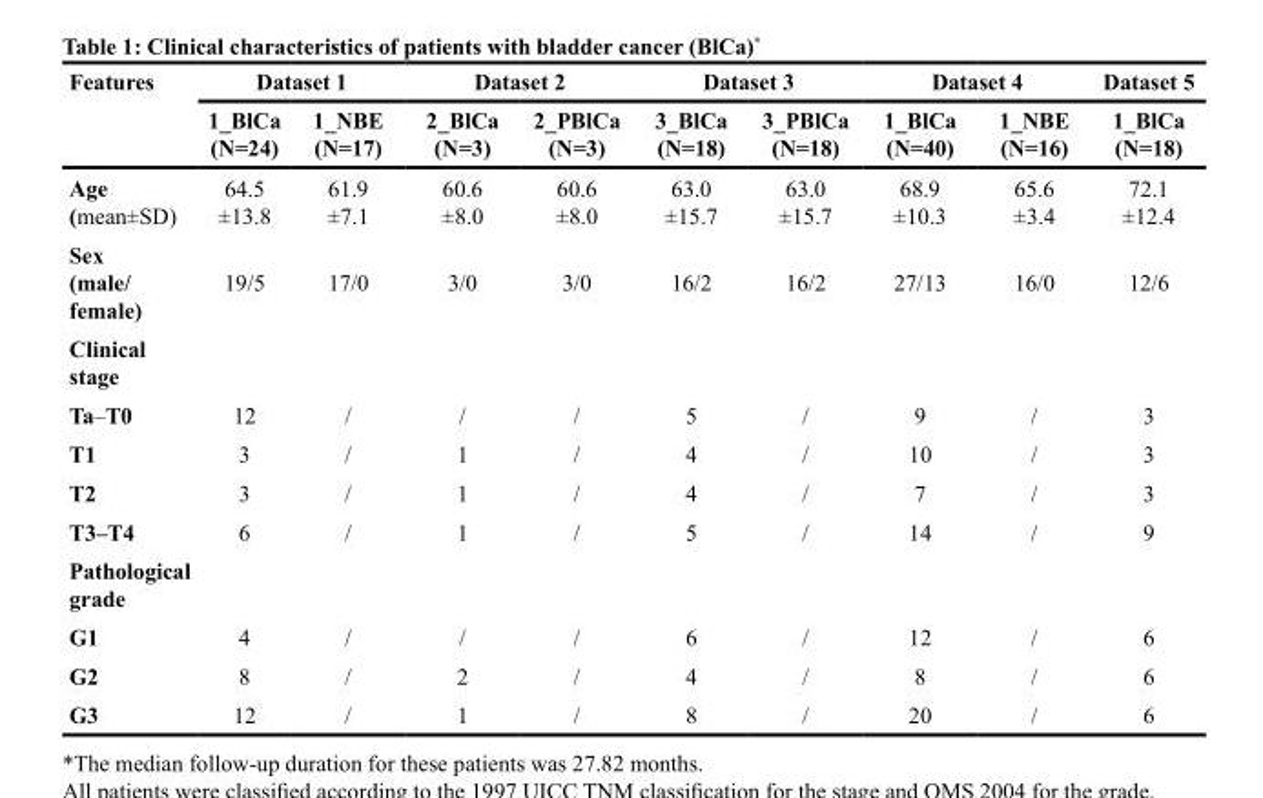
<table><thead><tr><td rowspan="2">Features</td><td colspan="2">Dataset 1</td><td colspan="2">Dataset 2</td><td colspan="2">Dataset 3</td><td colspan="2">Dataset 4</td><td rowspan="2">Dataset 5 1_BlCa (N=18)</td></tr><tr><td>1_BlCa (N=24)</td><td>1_NBE (N=17)</td><td>2_BlCa (N=3)</td><td>2_PBlCa (N=3)</td><td>3_BlCa (N=18)</td><td>3_PBlCa (N=18)</td><td>1_BlCa (N=40)</td><td>1_NBE (N=16)</td></tr></thead><tbody><tr><td>Age (mean±SD)</td><td>64.5 ±13.8</td><td>61.9 ±7.1</td><td>60.6 ±8.0</td><td>60.6 ±8.0</td><td>63.0 ±15.7</td><td>63.0 ±15.7</td><td>68.9 ±10.3</td><td>65.6 ±3.4</td><td>72.1 ±12.4</td></tr><tr><td>Sex (male/ female)</td><td>19/5</td><td>17/0</td><td>3/0</td><td>3/0</td><td>16/2</td><td>16/2</td><td>27/13</td><td>16/0</td><td>12/6</td></tr><tr><td colspan="10">Clinical stage</td></tr><tr><td>Ta–T0</td><td>12</td><td>/</td><td>/</td><td>/</td><td>5</td><td>/</td><td>9</td><td>/</td><td>3</td></tr><tr><td>T1</td><td>3</td><td>/</td><td>1</td><td>/</td><td>4</td><td>/</td><td>10</td><td>/</td><td>3</td></tr><tr><td>T2</td><td>3</td><td>/</td><td>1</td><td>/</td><td>4</td><td>/</td><td>7</td><td>/</td><td>3</td></tr><tr><td>T3–T4</td><td>6</td><td>/</td><td>1</td><td>/</td><td>5</td><td>/</td><td>14</td><td>/</td><td>9</td></tr><tr><td colspan="10">Pathological grade</td></tr><tr><td>G1</td><td>4</td><td>/</td><td>/</td><td>/</td><td>6</td><td>/</td><td>12</td><td>/</td><td>6</td></tr><tr><td>G2</td><td>8</td><td>/</td><td>2</td><td>/</td><td>4</td><td>/</td><td>8</td><td>/</td><td>6</td></tr><tr><td>G3</td><td>12</td><td>/</td><td>1</td><td>/</td><td>8</td><td>/</td><td>20</td><td>/</td><td>6</td></tr></tbody></table>